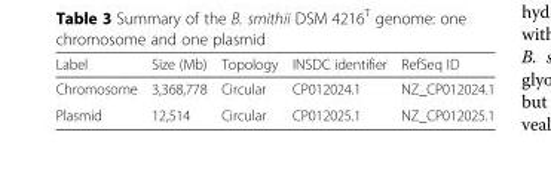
<table><thead><tr><td>Label</td><td>Size (Mb)</td><td>Topology</td><td>INSDC identifier</td><td>RefSeq ID</td></tr></thead><tbody><tr><td>Chromosome</td><td>3,368,778</td><td>Circular</td><td>CP012024.1</td><td>NZ_CP012024.1</td></tr><tr><td>Plasmid</td><td>12,514</td><td>Circular</td><td>CP012025.1</td><td>NZ_CP012025.1</td></tr></tbody></table>